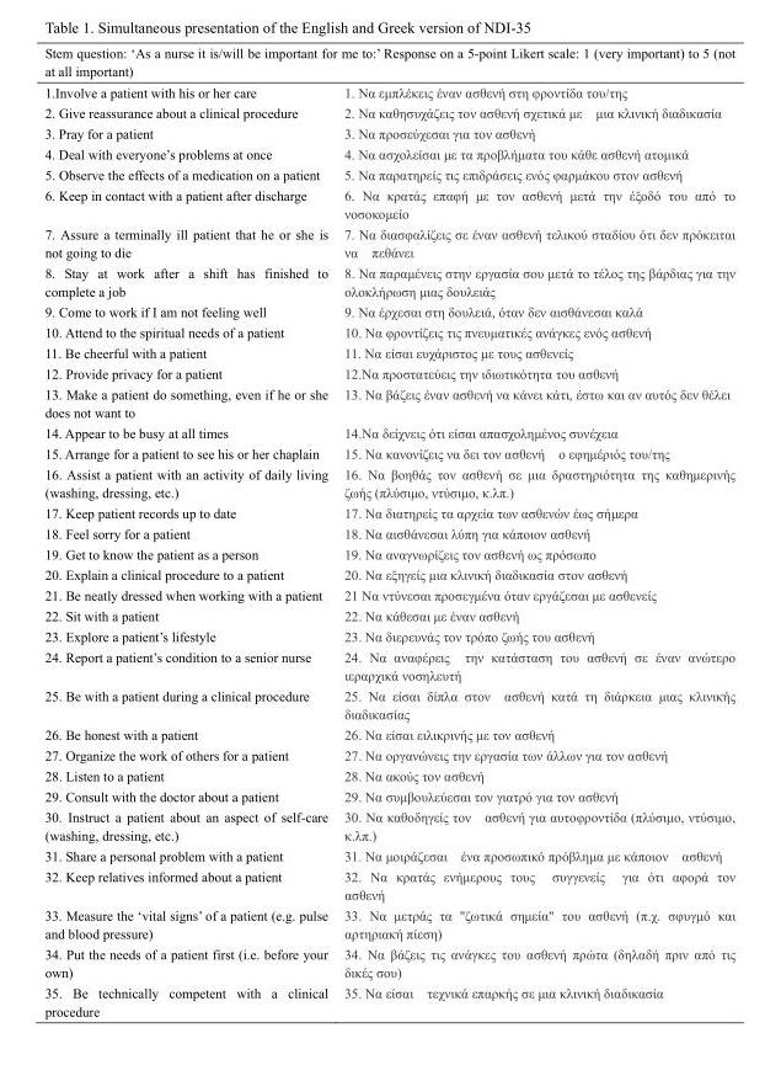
<table><thead><tr><td colspan="2">Stem question: ‘As a nurse it is/will be important for me to:’ Response on a 5-point Likert scale: 1 (very important) to 5 (not at all important)</td></tr><tr><td>1.Involve a patient with his or her care</td><td>1. Να εμπλέκεις έναν ασθενή στη φροντίδα του/της</td></tr></thead><tbody><tr><td>2. Give reassurance about a clinical procedure</td><td>2. Να καθησυχάζεις τον ασθενή σχετικά με μια κλινική διαδικασία</td></tr><tr><td>3. Pray for a patient</td><td>3. Να προσεύχεσαι για τον ασθενή</td></tr><tr><td>4. Deal with everyone’s problems at once</td><td>4. Να ασχολείσαι με τα προβλήματα του κάθε ασθενή ατομικά</td></tr><tr><td>5. Observe the effects of a medication on a patient</td><td>5. Να παρατηρείς τις επιδράσεις ενός φαρμάκου στον ασθενή</td></tr><tr><td>6. Keep in contact with a patient after discharge</td><td>6. Να κρατάς επαφή με τον ασθενή μετά την έξοδό του από το νοσοκομείο</td></tr><tr><td>7. Assure a terminally ill patient that he or she is not going to die</td><td>7. Να διασφαλίζεις σε έναν ασθενή τελικού σταδίου ότι δεν πρόκειται να πεθάνει</td></tr><tr><td>8. Stay at work after a shift has finished to complete a job</td><td>8. Να παραμένεις στην εργασία σου μετά το τέλος της βάρδιας για την ολοκλήρωση μιας δουλειάς</td></tr><tr><td>9. Come to work if I am not feeling well</td><td>9. Να έρχεσαι στη δουλειά, όταν δεν αισθάνεσαι καλά</td></tr><tr><td>10. Attend to the spiritual needs of a patient</td><td>10. Να φροντίζεις τις πνευματικές ανάγκες ενός ασθενή</td></tr><tr><td>11. Be cheerful with a patient</td><td>11. Να είσαι ευχάριστος με τους ασθενείς</td></tr><tr><td>12. Provide privacy for a patient</td><td>12.Να προστατεύεις την ιδιωτικότητα του ασθενή</td></tr><tr><td>13. Make a patient do something, even if he or she does not want to</td><td>13. Να βάζεις έναν ασθενή να κάνει κάτι, έστω και αν αυτός δεν θέλει</td></tr><tr><td>14. Appear to be busy at all times</td><td>14.Να δείχνεις ότι είσαι απασχολημένος συνέχεια</td></tr><tr><td>15. Arrange for a patient to see his or her chaplain</td><td>15. Να κανονίζεις να δει τον ασθενή ο εφημέριός του/της</td></tr><tr><td>16. Assist a patient with an activity of daily living (washing, dressing, etc.)</td><td>16. Να βοηθάς τον ασθενή σε μια δραστηριότητα της καθημερινής ζωής (πλύσιμο, ντύσιμο, κ.λπ.)</td></tr><tr><td>17. Keep patient records up to date</td><td>17. Να διατηρείς τα αρχεία των ασθενών έως σήμερα</td></tr><tr><td>18. Feel sorry for a patient</td><td>18. Να αισθάνεσαι λύπη για κάποιον ασθενή</td></tr><tr><td>19. Get to know the patient as a person</td><td>19. Να αναγνωρίζεις τον ασθενή ως πρόσωπο</td></tr><tr><td>20. Explain a clinical procedure to a patient</td><td>20. Να εξηγείς μια κλινική διαδικασία στον ασθενή</td></tr><tr><td>21. Be neatly dressed when working with a patient</td><td>21 Να ντύνεσαι προσεγμένα όταν εργάζεσαι με ασθενείς</td></tr><tr><td>22. Sit with a patient</td><td>22. Να κάθεσαι με έναν ασθενή</td></tr><tr><td>23. Explore a patient’s lifestyle</td><td>23. Να διερευνάς τον τρόπο ζωής του ασθενή</td></tr><tr><td>24. Report a patient’s condition to a senior nurse</td><td>24. Να αναφέρεις την κατάσταση του ασθενή σε έναν ανώτερο ιεραρχικά νοσηλευτή</td></tr><tr><td>25. Be with a patient during a clinical procedure</td><td>25. Να είσαι δίπλα στον ασθενή κατά τη διάρκεια μιας κλινικής διαδικασίας</td></tr><tr><td>26. Be honest with a patient</td><td>26. Να είσαι ειλικρινής με τον ασθενή</td></tr><tr><td>27. Organize the work of others for a patient</td><td>27. Να οργανώνεις την εργασία των άλλων για τον ασθενή</td></tr><tr><td>28. Listen to a patient</td><td>28. Να ακούς τον ασθενή</td></tr><tr><td>29. Consult with the doctor about a patient</td><td>29. Να συμβουλεύεσαι τον γιατρό για τον ασθενή</td></tr><tr><td>30. Instruct a patient about an aspect of self-care (washing, dressing, etc.)</td><td>30. Να καθοδηγείς τον ασθενή για αυτοφροντίδα (πλύσιμο, ντύσιμο, κ.λπ.)</td></tr><tr><td>31. Share a personal problem with a patient</td><td>31. Να μοιράζεσαι ένα προσωπικό πρόβλημα με κάποιον ασθενή</td></tr><tr><td>32. Keep relatives informed about a patient</td><td>32. Να κρατάς ενήμερους τους συγγενείς για ότι αφορά τον ασθενή</td></tr><tr><td>33. Measure the ‘vital signs’ of a patient (e.g. pulse and blood pressure)</td><td>33. Να μετράς τα &quot;ζωτικά σημεία&quot; του ασθενή (π.χ. σφυγμό και αρτηριακή πίεση)</td></tr><tr><td>34. Put the needs of a patient first (i.e. before your own)</td><td>34. Να βάζεις τις ανάγκες του ασθενή πρώτα (δηλαδή πριν από τις δικές σου)</td></tr><tr><td>35. Be technically competent with a clinical procedure</td><td>35. Να είσαι τεχνικά επαρκής σε μια κλινική διαδικασία</td></tr></tbody></table>